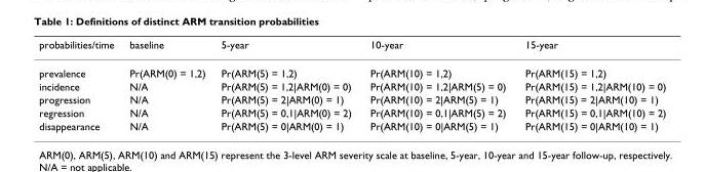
<table><thead><tr><td>probabilities/time</td><td>baseline</td><td>5-year</td><td>10-year</td><td>15-year</td></tr></thead><tbody><tr><td>prevalence</td><td>Pr(ARM(0) = 1,2)</td><td>Pr(ARM(5) = 1,2)</td><td>Pr(ARM(10) = 1,2)</td><td>Pr(ARM(15) = 1,2)</td></tr><tr><td>incidence</td><td>N/A</td><td>Pr(ARM(5) = 1,2|ARM(0) = 0)</td><td>Pr(ARM(10) = 1,2|ARM(5) = 0)</td><td>Pr(ARM(15) = 1,2|ARM(10) = 0)</td></tr><tr><td>progression</td><td>N/A</td><td>Pr(ARM(5) = 2|ARM(0) = 1)</td><td>Pr(ARM(10) = 2|ARM(5) = 1)</td><td>Pr(ARM(15) = 2|ARM(10) = 1)</td></tr><tr><td>regression</td><td>N/A</td><td>Pr(ARM(5) = 0,1|ARM(0) = 2)</td><td>Pr(ARM(10) = 0,1|ARM(5) = 2)</td><td>Pr(ARM(15) = 0,1|ARM(10) = 2)</td></tr><tr><td>disappearance</td><td>N/A</td><td>Pr(ARM(5) = 0|ARM(0) = 1)</td><td>Pr(ARM(10) = 0|ARM(5) = 1)</td><td>Pr(ARM(15) = 0|ARM(10) = 1)</td></tr></tbody></table>